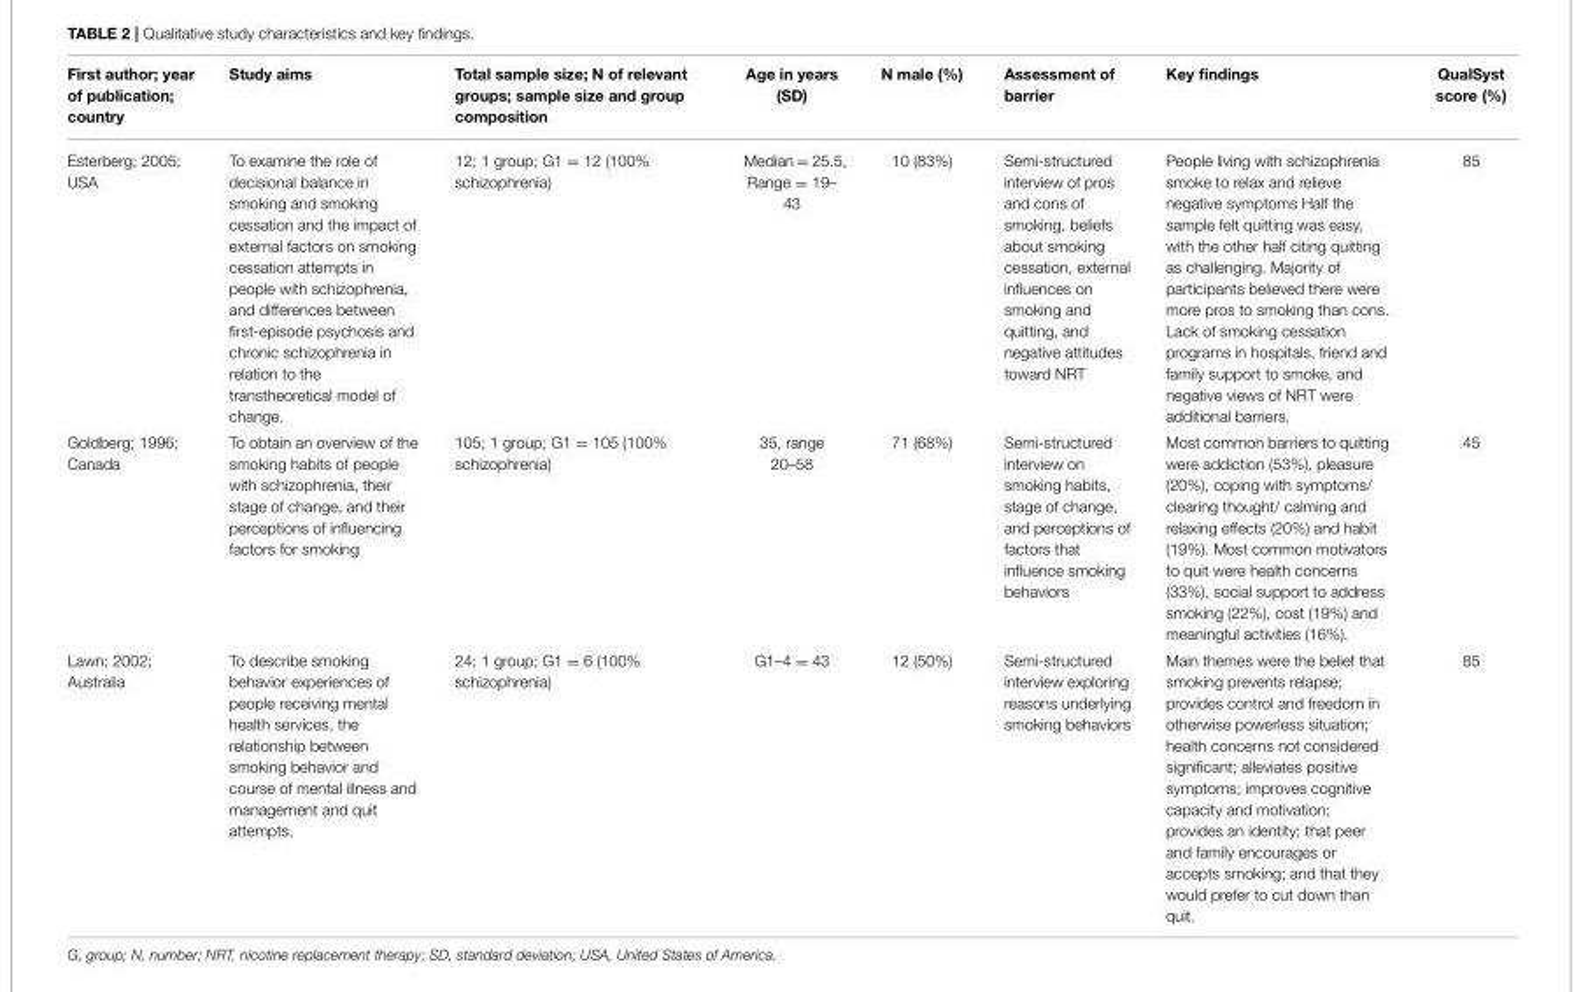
<table><thead><tr><td>First author; year of publication; country</td><td>Study aims</td><td>Total sample size; N of relevant groups; sample size and group composition</td><td>Age in years (SD)</td><td>N male (%)</td><td>Assessment of barrier</td><td>Key findings</td><td>QualSyst score (%)</td></tr></thead><tbody><tr><td>Esterberg; 2005; USA</td><td>To examine the role of decisional balance in smoking and smoking cessation and the impact of external factors on smoking cessation attempts in people with schizophrenia, and differences between first-episode psychosis and chronic schizophrenia in relation to the transtheoretical model of change.</td><td>12; 1 group; G1 = 12 (100% schizophrenia)</td><td>Median = 25.5, Range = 19– 43</td><td>10 (83%)</td><td>Semi-structured interview of pros and cons of smoking, beliefs about smoking cessation, external influences on smoking and quitting, and negative attitudes toward NRT</td><td>People living with schizophrenia smoke to relax and relieve negative symptoms Half the sample felt quitting was easy, with the other half citing quitting as challenging. Majority of participants believed there were more pros to smoking than cons. Lack of smoking cessation programs in hospitals, friend and family support to smoke, and negative views of NRT were additional barriers.</td><td>85</td></tr><tr><td>Goldberg; 1996; Canada</td><td>To obtain an overview of the smoking habits of people with schizophrenia, their stage of change, and their perceptions of influencing factors for smoking</td><td>105; 1 group; G1 = 105 (100% schizophrenia)</td><td>35, range 20–58</td><td>71 (68%)</td><td>Semi-structured interview on smoking habits, stage of change, and perceptions of factors that influence smoking behaviors</td><td>Most common barriers to quitting were addiction (53%), pleasure (20%), coping with symptoms/ clearing thought/ calming and relaxing effects (20%) and habit (19%). Most common motivators to quit were health concerns (33%), social support to address smoking (22%), cost (19%) and meaningful activities (16%).</td><td>45</td></tr><tr><td>Lawn; 2002; Australia</td><td>To describe smoking behavior experiences of people receiving mental health services, the relationship between smoking behavior and course of mental illness and management and quit attempts.</td><td>24; 1 group; G1 = 6 (100% schizophrenia)</td><td>G1–4 = 43</td><td>12 (50%)</td><td>Semi-structured interview exploring reasons underlying smoking behaviors</td><td>Main themes were the belief that smoking prevents relapse; provides control and freedom in otherwise powerless situation; health concerns not considered significant; alleviates positive symptoms; improves cognitive capacity and motivation; provides an identity; that peer and family encourages or accepts smoking; and that they would prefer to cut down than quit.</td><td>85</td></tr></tbody></table>